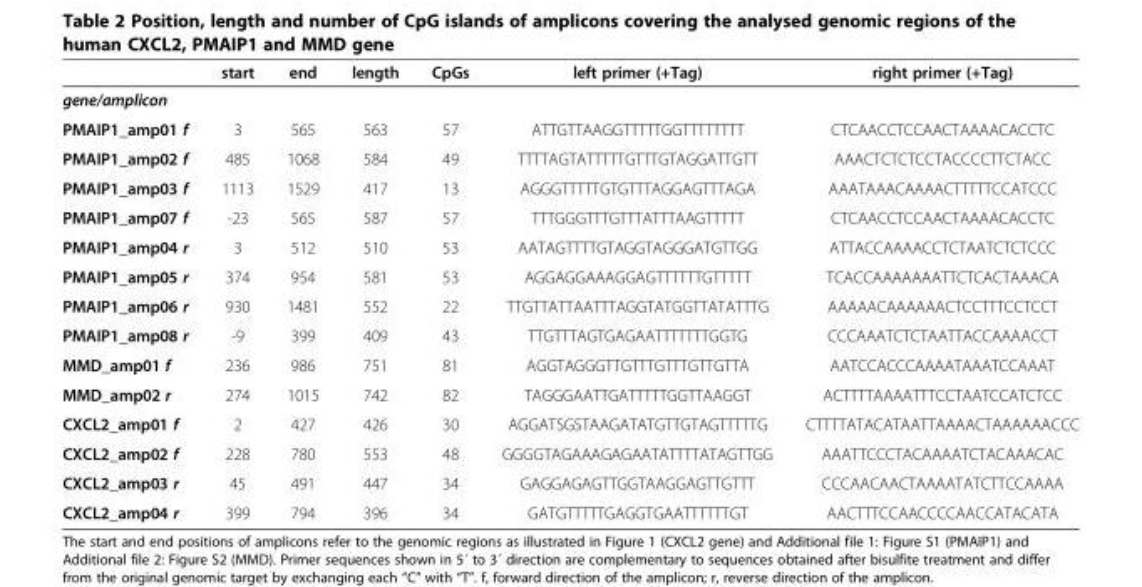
<table><thead><tr><td></td><td>start</td><td>end</td><td>length</td><td>CpGs</td><td>left primer (+Tag)</td><td>right primer (+Tag)</td></tr></thead><tbody><tr><td colspan="7">gene/amplicon</td></tr><tr><td>PMAIP1_amp01 f</td><td>3</td><td>565</td><td>563</td><td>57</td><td>ATTGTTAAGGTTTTTGGTTTTTTTT</td><td>CTCAACCTCCAACTAAAACACCTC</td></tr><tr><td>PMAIP1_amp02 f</td><td>485</td><td>1068</td><td>584</td><td>49</td><td>TTTTAGTATTTTTGTTTGTAGGATTGTT</td><td>AAACTCTCTCCTACCCCTTCTACC</td></tr><tr><td>PMAIP1_amp03 f</td><td>1113</td><td>1529</td><td>417</td><td>13</td><td>AGGGTTTTTGTGTTTAGGAGTTTAGA</td><td>AAATAAACAAAACTTTTTCCATCCC</td></tr><tr><td>PMAIP1_amp07 f</td><td>-23</td><td>565</td><td>587</td><td>57</td><td>TTTGGGTTTGTTTATTTAAGTTTTT</td><td>CTCAACCTCCAACTAAAACACCTC</td></tr><tr><td>PMAIP1_amp04 r</td><td>3</td><td>512</td><td>510</td><td>53</td><td>AATAGTTTTGTAGGTAGGGATGTTGG</td><td>ATTACCAAAACCTCTAATCTCTCCC</td></tr><tr><td>PMAIP1_amp05 r</td><td>374</td><td>954</td><td>581</td><td>53</td><td>AGGAGGAAAGGAGTTTTTTGTTTTT</td><td>TCACCAAAAAAATTCTCACTAAACA</td></tr><tr><td>PMAIP1_amp06 r</td><td>930</td><td>1481</td><td>552</td><td>22</td><td>TTGTTATTAATTTAGGTATGGTTATATTTG</td><td>AAAAACAAAAAACTCCTTTCCTCCT</td></tr><tr><td>PMAIP1_amp08 r</td><td>-9</td><td>399</td><td>409</td><td>43</td><td>TTGTTTAGTGAGAATTTTTTTGGTG</td><td>CCCAAATCTCTAATTACCAAAACCT</td></tr><tr><td>MMD_amp01 f</td><td>236</td><td>986</td><td>751</td><td>81</td><td>AGGTAGGGTTGTTTGTTTGTTGTTA</td><td>AATCCACCCAAAATAAATCCAAAT</td></tr><tr><td>MMD_amp02 r</td><td>274</td><td>1015</td><td>742</td><td>82</td><td>TAGGGAATTGATTTTTGGTTAAGGT</td><td>ACTTTTAAAATTTCCTAATCCATCTCC</td></tr><tr><td>CXCL2_amp01 f</td><td>2</td><td>427</td><td>426</td><td>30</td><td>AGGATSGSTAAGATATGTTGTAGTTTTTG</td><td>CTTTTATACATAATTAAAACTAAAAAACCC</td></tr><tr><td>CXCL2_amp02 f</td><td>228</td><td>780</td><td>553</td><td>48</td><td>GGGGTAGAAAGAGAATATTTTATAGTTGG</td><td>AAATTCCCTACAAAATCTACAAACAC</td></tr><tr><td>CXCL2_amp03 r</td><td>45</td><td>491</td><td>447</td><td>34</td><td>GAGGAGAGTTGGTAAGGAGTTGTTT</td><td>CCCAACAACTAAAATATCTTCCAAAA</td></tr><tr><td>CXCL2_amp04 r</td><td>399</td><td>794</td><td>396</td><td>34</td><td>GATGTTTTTGAGGTGAATTTTTTGT</td><td>AACTTTCCAACCCCAACCATACATA</td></tr></tbody></table>